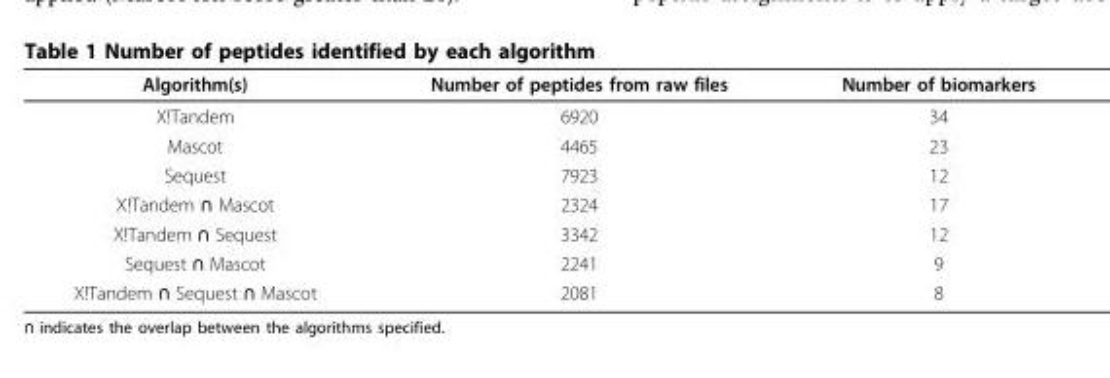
<table><thead><tr><td>Algorithm(s)</td><td>Number of peptides from raw files</td><td>Number of biomarkers</td></tr></thead><tbody><tr><td>X!Tandem</td><td>6920</td><td>34</td></tr><tr><td>Mascot</td><td>4465</td><td>23</td></tr><tr><td>Sequest</td><td>7923</td><td>12</td></tr><tr><td>X!Tandem ∩ Mascot</td><td>2324</td><td>17</td></tr><tr><td>X!Tandem ∩ Sequest</td><td>3342</td><td>12</td></tr><tr><td>Sequest ∩ Mascot</td><td>2241</td><td>9</td></tr><tr><td>X!Tandem ∩ Sequest ∩ Mascot</td><td>2081</td><td>8</td></tr></tbody></table>